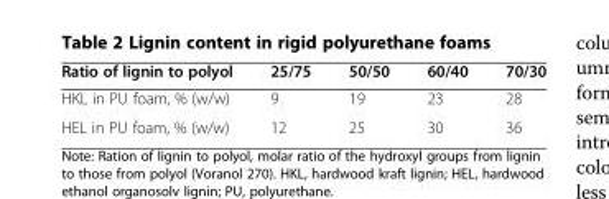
<table><thead><tr><td>Ratio of lignin to polyol</td><td>25/75</td><td>50/50</td><td>60/40</td><td>70/30</td></tr></thead><tbody><tr><td>HKL in PU foam, % (w/w)</td><td>9</td><td>19</td><td>23</td><td>28</td></tr><tr><td>HEL in PU foam, % (w/w)</td><td>12</td><td>25</td><td>30</td><td>36</td></tr></tbody></table>